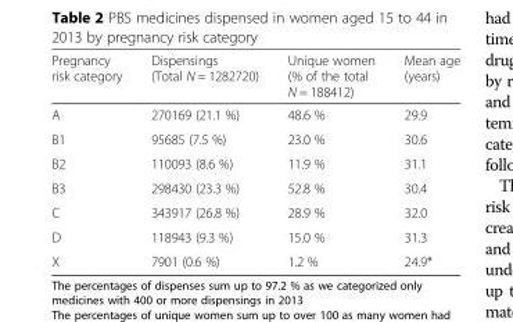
<table><thead><tr><td>Pregnancy risk category</td><td>Dispensings (Total N = 1282720)</td><td>Unique women (% of the total N = 188412)</td><td>Mean age (years)</td></tr></thead><tbody><tr><td>A</td><td>270169 (21.1 %)</td><td>48.6 %</td><td>29.9</td></tr><tr><td>B1</td><td>95685 (7.5 %)</td><td>23.0 %</td><td>30.6</td></tr><tr><td>B2</td><td>110093 (8.6 %)</td><td>11.9 %</td><td>31.1</td></tr><tr><td>B3</td><td>298430 (23.3 %)</td><td>52.8 %</td><td>30.4</td></tr><tr><td>C</td><td>343917 (26.8 %)</td><td>28.9 %</td><td>32.0</td></tr><tr><td>D</td><td>118943 (9.3 %)</td><td>15.0 %</td><td>31.3</td></tr><tr><td>X</td><td>7901 (0.6 %)</td><td>1.2 %</td><td>24.9*</td></tr></tbody></table>